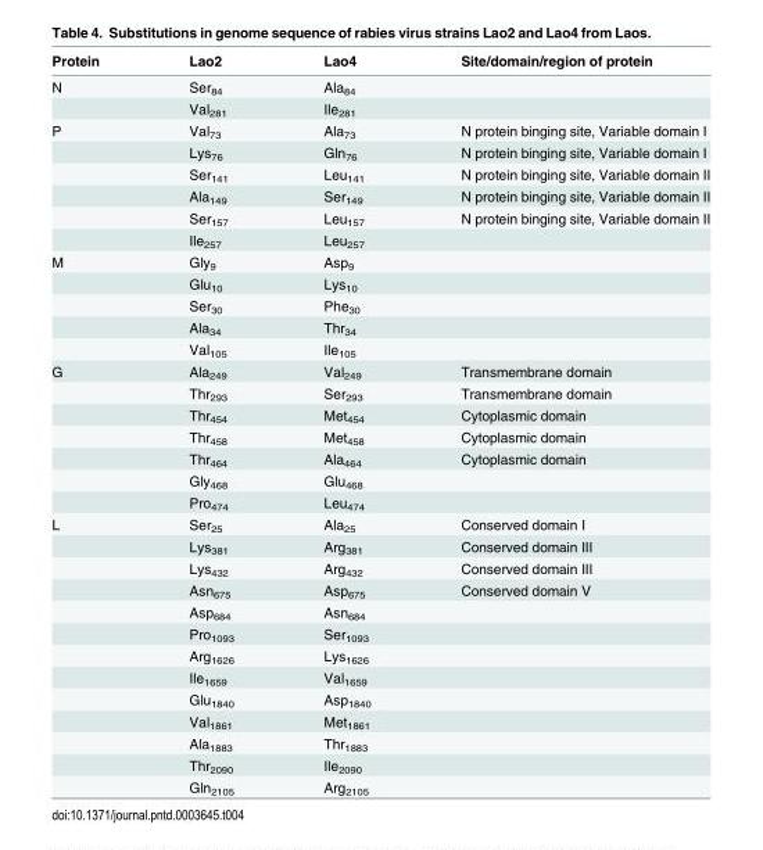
<table><thead><tr><td>Protein</td><td>Lao2</td><td>Lao4</td><td>Site/domain/region of protein</td></tr></thead><tbody><tr><td rowspan="2">N</td><td>Ser<sub>84</sub></td><td>Ala<sub>84</sub></td><td></td></tr><tr><td>Val<sub>281</sub></td><td>Ile<sub>281</sub></td><td></td></tr><tr><td rowspan="6">P</td><td>Val<sub>73</sub></td><td>Ala<sub>73</sub></td><td>N protein binging site, Variable domain I</td></tr><tr><td>Lys<sub>76</sub></td><td>Gln<sub>76</sub></td><td>N protein binging site, Variable domain I</td></tr><tr><td>Ser<sub>141</sub></td><td>Leu<sub>141</sub></td><td>N protein binging site, Variable domain II</td></tr><tr><td>Ala<sub>149</sub></td><td>Ser<sub>149</sub></td><td>N protein binging site, Variable domain II</td></tr><tr><td>Ser<sub>157</sub></td><td>Leu<sub>157</sub></td><td>N protein binging site, Variable domain II</td></tr><tr><td>Ile<sub>257</sub></td><td>Leu<sub>257</sub></td><td></td></tr><tr><td rowspan="5">M</td><td>Gly<sub>9</sub></td><td>Asp<sub>9</sub></td><td></td></tr><tr><td>Glu<sub>10</sub></td><td>Lys<sub>10</sub></td><td></td></tr><tr><td>Ser<sub>30</sub></td><td>Phe<sub>30</sub></td><td></td></tr><tr><td>Ala<sub>34</sub></td><td>Thr<sub>34</sub></td><td></td></tr><tr><td>Val<sub>105</sub></td><td>Ile<sub>105</sub></td><td></td></tr><tr><td rowspan="7">G</td><td>Ala<sub>249</sub></td><td>Val<sub>249</sub></td><td>Transmembrane domain</td></tr><tr><td>Thr<sub>293</sub></td><td>Ser<sub>293</sub></td><td>Transmembrane domain</td></tr><tr><td>Thr<sub>454</sub></td><td>Met<sub>454</sub></td><td>Cytoplasmic domain</td></tr><tr><td>Thr<sub>458</sub></td><td>Met<sub>458</sub></td><td>Cytoplasmic domain</td></tr><tr><td>Thr<sub>464</sub></td><td>Ala<sub>464</sub></td><td>Cytoplasmic domain</td></tr><tr><td>Gly<sub>468</sub></td><td>Glu<sub>468</sub></td><td></td></tr><tr><td>Pro<sub>474</sub></td><td>Leu<sub>474</sub></td><td></td></tr><tr><td rowspan="13">L</td><td>Ser<sub>25</sub></td><td>Ala<sub>25</sub></td><td>Conserved domain I</td></tr><tr><td>Lys<sub>381</sub></td><td>Arg<sub>381</sub></td><td>Conserved domain III</td></tr><tr><td>Lys<sub>432</sub></td><td>Arg<sub>432</sub></td><td>Conserved domain III</td></tr><tr><td>Asn<sub>675</sub></td><td>Asp<sub>675</sub></td><td>Conserved domain V</td></tr><tr><td>Asp<sub>684</sub></td><td>Asn<sub>684</sub></td><td></td></tr><tr><td>Pro<sub>1093</sub></td><td>Ser<sub>1093</sub></td><td></td></tr><tr><td>Arg<sub>1626</sub></td><td>Lys<sub>1626</sub></td><td></td></tr><tr><td>Ile<sub>1659</sub></td><td>Val<sub>1659</sub></td><td></td></tr><tr><td>Glu<sub>1840</sub></td><td>Asp<sub>1840</sub></td><td></td></tr><tr><td>Val<sub>1861</sub></td><td>Met<sub>1861</sub></td><td></td></tr><tr><td>Ala<sub>1883</sub></td><td>Thr<sub>1883</sub></td><td></td></tr><tr><td>Thr<sub>2090</sub></td><td>Ile<sub>2090</sub></td><td></td></tr><tr><td>Gln<sub>2105</sub></td><td>Arg<sub>2105</sub></td><td></td></tr></tbody></table>